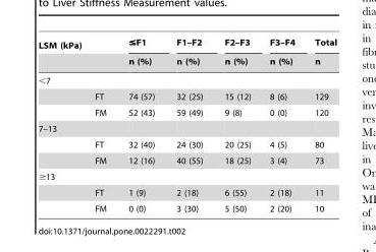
<table><thead><tr><td rowspan="2">LSM (kPa)</td><td rowspan="2">≤F1 n (%)</td><td rowspan="2">F1–F2 n (%)</td><td rowspan="2">F2–F3 n (%)</td><td rowspan="2">F3–F4 n (%)</td><td rowspan="2">Total n</td></tr><tr></tr></thead><tbody><tr><td colspan="6">&lt;7</td></tr><tr><td>FT</td><td>74 (57)</td><td>32 (25)</td><td>15 (12)</td><td>8 (6)</td><td>129</td></tr><tr><td>FM</td><td>52 (43)</td><td>59 (49)</td><td>9 (8)</td><td>0 (0)</td><td>120</td></tr><tr><td colspan="6">7–13</td></tr><tr><td>FT</td><td>32 (40)</td><td>24 (30)</td><td>20 (25)</td><td>4 (5)</td><td>80</td></tr><tr><td>FM</td><td>12 (16)</td><td>40 (55)</td><td>18 (25)</td><td>3 (4)</td><td>73</td></tr><tr><td colspan="6">≥13</td></tr><tr><td>FT</td><td>1 (9)</td><td>2 (18)</td><td>6 (55)</td><td>2 (18)</td><td>11</td></tr><tr><td>FM</td><td>0 (0)</td><td>3 (30)</td><td>5 (50)</td><td>2 (20)</td><td>10</td></tr></tbody></table>